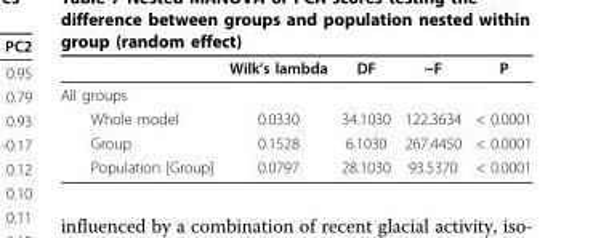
<table><thead><tr><td></td><td>Wilk’s lambda</td><td>DF</td><td>~F</td><td>P</td></tr></thead><tbody><tr><td colspan="5">All groups</td></tr><tr><td>Whole model</td><td>0.0330</td><td>34.1030</td><td>122.3634</td><td>&lt; 0.0001</td></tr><tr><td>Group</td><td>0.1528</td><td>6.1030</td><td>267.4450</td><td>&lt; 0.0001</td></tr><tr><td>Population [Group]</td><td>0.0797</td><td>28.1030</td><td>93.5370</td><td>&lt; 0.0001</td></tr></tbody></table>